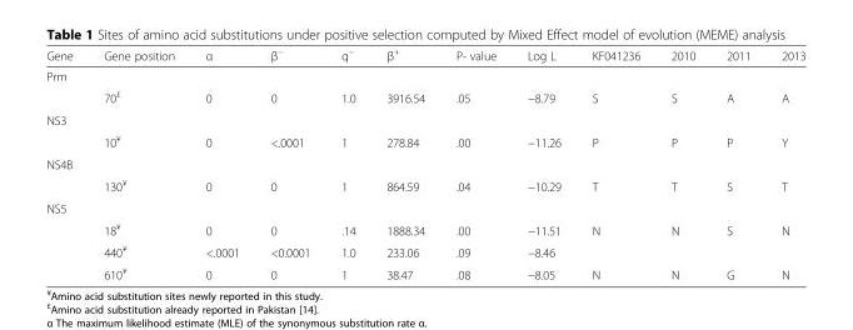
<table><thead><tr><td>Gene</td><td>Gene position</td><td>α</td><td>β<sup>−</sup></td><td>q<sup>−</sup></td><td>β<sup>+</sup></td><td>P- value</td><td>Log L</td><td>KF041236</td><td>2010</td><td>2011</td><td>2013</td></tr></thead><tbody><tr><td colspan="12">Prm</td></tr><tr><td></td><td>70<sup>£</sup></td><td>0</td><td>0</td><td>1.0</td><td>3916.54</td><td>.05</td><td>−8.79</td><td>S</td><td>S</td><td>A</td><td>A</td></tr><tr><td colspan="12">NS3</td></tr><tr><td></td><td>10<sup>¥</sup></td><td>0</td><td>&lt;.0001</td><td>1</td><td>278.84</td><td>.00</td><td>−11.26</td><td>P</td><td>P</td><td>P</td><td>Y</td></tr><tr><td colspan="12">NS4B</td></tr><tr><td></td><td>130<sup>¥</sup></td><td>0</td><td>0</td><td>1</td><td>864.59</td><td>.04</td><td>−10.29</td><td>T</td><td>T</td><td>S</td><td>T</td></tr><tr><td colspan="12">NS5</td></tr><tr><td></td><td>18<sup>¥</sup></td><td>0</td><td>0</td><td>.14</td><td>1888.34</td><td>.00</td><td>−11.51</td><td>N</td><td>N</td><td>S</td><td>N</td></tr><tr><td></td><td>440<sup>¥</sup></td><td>&lt;.0001</td><td>&lt;0.0001</td><td>1.0</td><td>233.06</td><td>.09</td><td>−8.46</td><td></td><td></td><td></td><td></td></tr><tr><td></td><td>610<sup>¥</sup></td><td>0</td><td>0</td><td>1</td><td>38.47</td><td>.08</td><td>−8.05</td><td>N</td><td>N</td><td>G</td><td>N</td></tr></tbody></table>